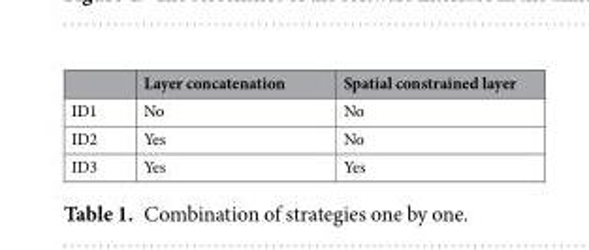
<table><thead><tr><td></td><td>Layer concatenation</td><td>Spatial constrained layer</td></tr></thead><tbody><tr><td>ID1</td><td>No</td><td>No</td></tr><tr><td>ID2</td><td>Yes</td><td>No</td></tr><tr><td>ID3</td><td>Yes</td><td>Yes</td></tr></tbody></table>